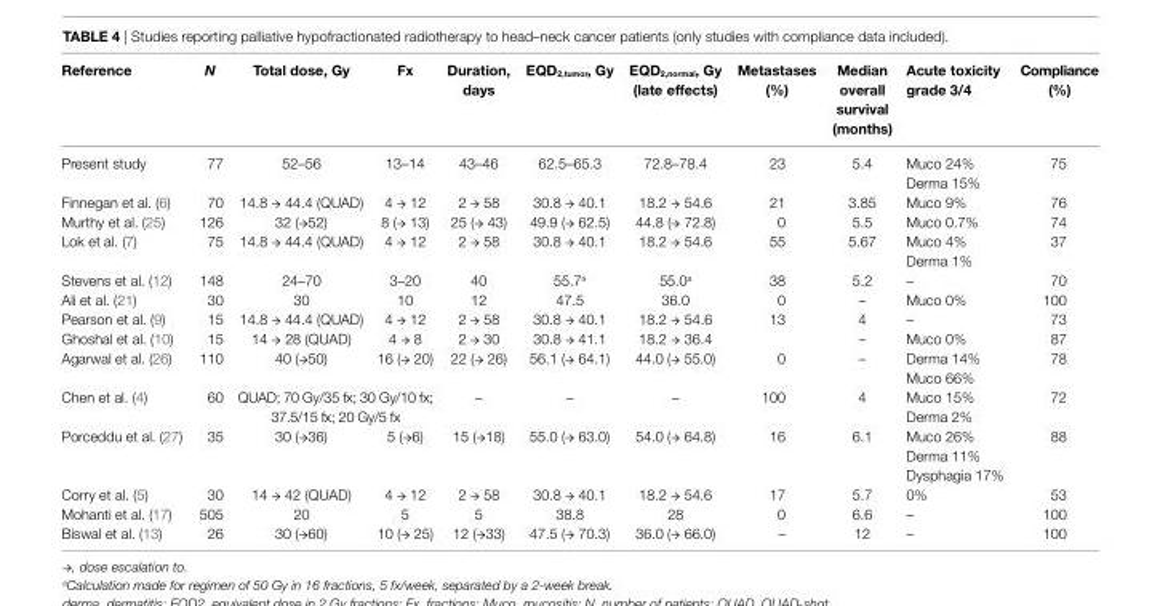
<table><thead><tr><td>reference</td><td>N</td><td>Total dose, gy</td><td>Fx</td><td>Duration, days</td><td>eQD<sub>2,tumor</sub>, gy</td><td>eQD<sub>2,normal</sub>, gy (late effects)</td><td>Metastases (%)</td><td>Median overall survival (months)</td><td>acute toxicity grade 3/4</td><td>compliance (%)</td></tr></thead><tbody><tr><td>Present study</td><td>77</td><td>52–56</td><td>13–14</td><td>43–46</td><td>62.5–65.3</td><td>72.8–78.4</td><td>23</td><td>5.4</td><td>Muco 24% Derma 15%</td><td>75</td></tr><tr><td>Finnegan et al. (6)</td><td>70</td><td>14.8 → 44.4 (QUAD)</td><td>4 → 12</td><td>2 → 58</td><td>30.8 → 40.1</td><td>18.2 → 54.6</td><td>21</td><td>3.85</td><td>Muco 9%</td><td>76</td></tr><tr><td>Murthy et al. (25)</td><td>126</td><td>32 (→52)</td><td>8 (→ 13)</td><td>25 (→ 43)</td><td>49.9 (→ 62.5)</td><td>44.8 (→ 72.8)</td><td>0</td><td>5.5</td><td>Muco 0.7%</td><td>74</td></tr><tr><td>Lok et al. (7)</td><td>75</td><td>14.8 → 44.4 (QUAD)</td><td>4 → 12</td><td>2 → 58</td><td>30.8 → 40.1</td><td>18.2 → 54.6</td><td>55</td><td>5.67</td><td>Muco 4% Derma 1%</td><td>37</td></tr><tr><td>Stevens et al. (12)</td><td>148</td><td>24–70</td><td>3–20</td><td>40</td><td>55.7<sup>a</sup></td><td>55.0<sup>a</sup></td><td>38</td><td>5.2</td><td>–</td><td>70</td></tr><tr><td>Ali et al. (21)</td><td>30</td><td>30</td><td>10</td><td>12</td><td>47.5</td><td>36.0</td><td>0</td><td>–</td><td>Muco 0%</td><td>100</td></tr><tr><td>Pearson et al. (9)</td><td>15</td><td>14.8 → 44.4 (QUAD)</td><td>4 → 12</td><td>2 → 58</td><td>30.8 → 40.1</td><td>18.2 → 54.6</td><td>13</td><td>4</td><td>–</td><td>73</td></tr><tr><td>Ghoshal et al. (10)</td><td>15</td><td>14 → 28 (QUAD)</td><td>4 → 8</td><td>2 → 30</td><td>30.8 → 41.1</td><td>18.2 → 36.4</td><td></td><td>–</td><td>Muco 0%</td><td>87</td></tr><tr><td>Agarwal et al. (26)</td><td>110</td><td>40 (→50)</td><td>16 (→ 20)</td><td>22 (→ 26)</td><td>56.1 (→ 64.1)</td><td>44.0 (→ 55.0)</td><td>0</td><td>–</td><td>Derma 14% Muco 66%</td><td>78</td></tr><tr><td>Chen et al. (4)</td><td>60</td><td colspan="2">QUAD; 70 Gy/35 fx; 30 Gy/10 fx; 37.5/15 fx; 20 Gy/5 fx</td><td>–</td><td>–</td><td>–</td><td>100</td><td>4</td><td>Muco 15% Derma 2%</td><td>72</td></tr><tr><td>Porceddu et al. (27)</td><td>35</td><td>30 (→36)</td><td>5 (→6)</td><td>15 (→18)</td><td>55.0 (→ 63.0)</td><td>54.0 (→ 64.8)</td><td>16</td><td>6.1</td><td>Muco 26% Derma 11% Dysphagia 17%</td><td>88</td></tr><tr><td>Corry et al. (5)</td><td>30</td><td>14 → 42 (QUAD)</td><td>4 → 12</td><td>2 → 58</td><td>30.8 → 40.1</td><td>18.2 → 54.6</td><td>17</td><td>5.7</td><td>0%</td><td>53</td></tr><tr><td>Mohanti et al. (17)</td><td>505</td><td>20</td><td>5</td><td>5</td><td>38.8</td><td>28</td><td>0</td><td>6.6</td><td>–</td><td>100</td></tr><tr><td>Biswal et al. (13)</td><td>26</td><td>30 (→60)</td><td>10 (→ 25)</td><td>12 (→33)</td><td>47.5 (→ 70.3)</td><td>36.0 (→ 66.0)</td><td>–</td><td>12</td><td>–</td><td>100</td></tr></tbody></table>